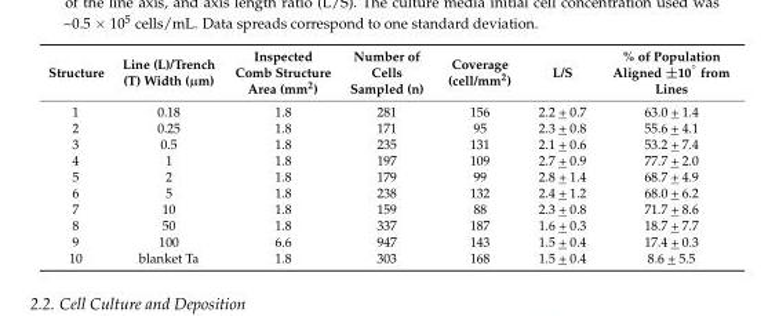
<table><thead><tr><td>Structure</td><td>Line (L)/Trench (T) Width (µm)</td><td>Inspected Comb Structure Area (mm<sup>2</sup>)</td><td>Number of Cells Sampled (n)</td><td>Coverage (cell/mm<sup>2</sup>)</td><td>L/S</td><td>% of Population Aligned ±10 ◦ from Lines</td></tr></thead><tbody><tr><td>1</td><td>0.18</td><td>1.8</td><td>281</td><td>156</td><td>2.2 + 0.7</td><td>63.0 + 1.4</td></tr><tr><td>2</td><td>0.25</td><td>1.8</td><td>171</td><td>95</td><td>2.3 + 0.8</td><td>55.6 + 4.1</td></tr><tr><td>3</td><td>0.5</td><td>1.8</td><td>235</td><td>131</td><td>2.1 + 0.6</td><td>53.2 + 7.4</td></tr><tr><td>4</td><td>1</td><td>1.8</td><td>197</td><td>109</td><td>2.7 + 0.9</td><td>77.7 + 2.0</td></tr><tr><td>5</td><td>2</td><td>1.8</td><td>179</td><td>99</td><td>2.8 + 1.4</td><td>68.7 + 4.9</td></tr><tr><td>6</td><td>5</td><td>1.8</td><td>238</td><td>132</td><td>2.4 + 1.2</td><td>68.0 + 6.2</td></tr><tr><td>7</td><td>10</td><td>1.8</td><td>159</td><td>88</td><td>2.3 + 0.8</td><td>71.7 + 8.6</td></tr><tr><td>8</td><td>50</td><td>1.8</td><td>337</td><td>187</td><td>1.6 + 0.3</td><td>18.7 + 7.7</td></tr><tr><td>9</td><td>100</td><td>6.6</td><td>947</td><td>143</td><td>1.5 + 0.4</td><td>17.4 + 0.3</td></tr><tr><td>10</td><td>blanket Ta</td><td>1.8</td><td>303</td><td>168</td><td>1.5 + 0.4</td><td>8.6 + 5.5</td></tr></tbody></table>